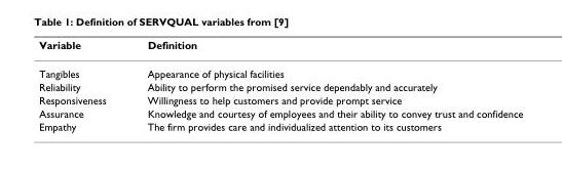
<table><thead><tr><td>Variable</td><td>Definition</td></tr></thead><tbody><tr><td>Tangibles</td><td>Appearance of physical facilities</td></tr><tr><td>Reliability</td><td>Ability to perform the promised service dependably and accurately</td></tr><tr><td>Responsiveness</td><td>Willingness to help customers and provide prompt service</td></tr><tr><td>Assurance</td><td>Knowledge and courtesy of employees and their ability to convey trust and confidence</td></tr><tr><td>Empathy</td><td>The firm provides care and individualized attention to its customers</td></tr></tbody></table>